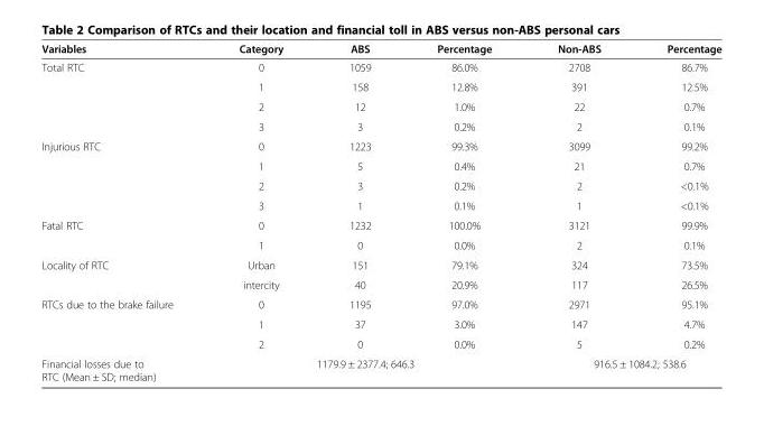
<table><thead><tr><td>Variables</td><td>Category</td><td>ABS</td><td>Percentage</td><td>Non-ABS</td><td>Percentage</td></tr></thead><tbody><tr><td rowspan="4">Total RTC</td><td>0</td><td>1059</td><td>86.0%</td><td>2708</td><td>86.7%</td></tr><tr><td>1</td><td>158</td><td>12.8%</td><td>391</td><td>12.5%</td></tr><tr><td>2</td><td>12</td><td>1.0%</td><td>22</td><td>0.7%</td></tr><tr><td>3</td><td>3</td><td>0.2%</td><td>2</td><td>0.1%</td></tr><tr><td rowspan="4">Injurious RTC</td><td>0</td><td>1223</td><td>99.3%</td><td>3099</td><td>99.2%</td></tr><tr><td>1</td><td>5</td><td>0.4%</td><td>21</td><td>0.7%</td></tr><tr><td>2</td><td>3</td><td>0.2%</td><td>2</td><td>&lt;0.1%</td></tr><tr><td>3</td><td>1</td><td>0.1%</td><td>1</td><td>&lt;0.1%</td></tr><tr><td rowspan="2">Fatal RTC</td><td>0</td><td>1232</td><td>100.0%</td><td>3121</td><td>99.9%</td></tr><tr><td>1</td><td>0</td><td>0.0%</td><td>2</td><td>0.1%</td></tr><tr><td rowspan="2">Locality of RTC</td><td>Urban</td><td>151</td><td>79.1%</td><td>324</td><td>73.5%</td></tr><tr><td>intercity</td><td>40</td><td>20.9%</td><td>117</td><td>26.5%</td></tr><tr><td rowspan="3">RTCs due to the brake failure</td><td>0</td><td>1195</td><td>97.0%</td><td>2971</td><td>95.1%</td></tr><tr><td>1</td><td>37</td><td>3.0%</td><td>147</td><td>4.7%</td></tr><tr><td>2</td><td>0</td><td>0.0%</td><td>5</td><td>0.2%</td></tr><tr><td>Financial losses due to RTC (Mean ± SD; median)</td><td colspan="3">1179.9 ± 2377.4; 646.3</td><td colspan="2">916.5 ± 1084.2; 538.6</td></tr></tbody></table>